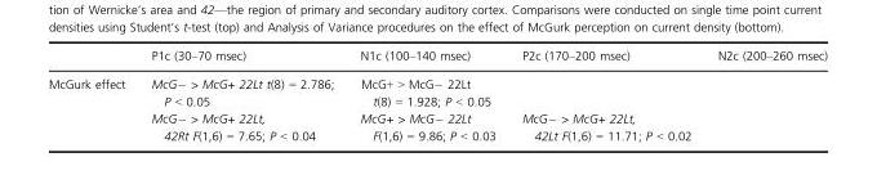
<table><thead><tr><td></td><td>P1c (30–70 msec)</td><td>N1c (100–140 msec)</td><td>P2c (170–200 msec)</td><td>N2c (200–260 msec)</td></tr></thead><tbody><tr><td rowspan="2">McGurk effect</td><td>McG− &gt; McG+ 22Lt t(8) = 2.786; P &lt; 0.05</td><td>McG+ &gt; McG− 22Lt t(8) = 1.928; P &lt; 0.05</td><td></td><td></td></tr><tr><td>McG− &gt; McG+ 22Lt, 42Rt F(1,6) = 7.65; P &lt; 0.04</td><td>McG+ &gt; McG− 22Lt F(1,6) = 9.86; P &lt; 0.03</td><td>McG− &gt; McG+ 22Lt, 42Lt F(1,6) = 11.71; P &lt; 0.02</td><td></td></tr></tbody></table>